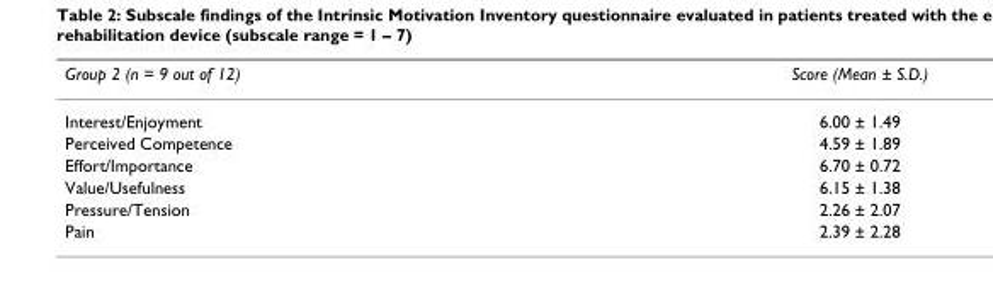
<table><thead><tr><td>Group 2 (n = 9 out of 12)</td><td>Score (Mean ± S.D.)</td></tr></thead><tbody><tr><td>Interest/Enjoyment</td><td>6.00 ± 1.49</td></tr><tr><td>Perceived Competence</td><td>4.59 ± 1.89</td></tr><tr><td>Effort/Importance</td><td>6.70 ± 0.72</td></tr><tr><td>Value/Usefulness</td><td>6.15 ± 1.38</td></tr><tr><td>Pressure/Tension</td><td>2.26 ± 2.07</td></tr><tr><td>Pain</td><td>2.39 ± 2.28</td></tr></tbody></table>